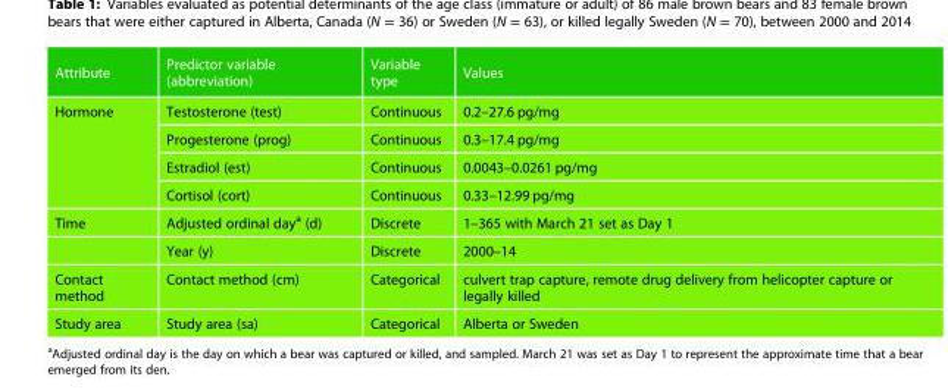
<table><thead><tr><td>Attribute</td><td>Predictor variable (abbreviation)</td><td>Variable type</td><td>Values</td></tr></thead><tbody><tr><td rowspan="4">Hormone</td><td>Testosterone (test)</td><td>Continuous</td><td>0.2–27.6 pg/mg</td></tr><tr><td>Progesterone (prog)</td><td>Continuous</td><td>0.3–17.4 pg/mg</td></tr><tr><td>Estradiol (est)</td><td>Continuous</td><td>0.0043–0.0261 pg/mg</td></tr><tr><td>Cortisol (cort)</td><td>Continuous</td><td>0.33–12.99 pg/mg</td></tr><tr><td rowspan="2">Time</td><td>Adjusted ordinal day<sup>a</sup> (d)</td><td>Discrete</td><td>1–365 with March 21 set as Day 1</td></tr><tr><td>Year (y)</td><td>Discrete</td><td>2000–14</td></tr><tr><td>Contact method</td><td>Contact method (cm)</td><td>Categorical</td><td>culvert trap capture, remote drug delivery from helicopter capture or legally killed</td></tr><tr><td>Study area</td><td>Study area (sa)</td><td>Categorical</td><td>Alberta or Sweden</td></tr></tbody></table>